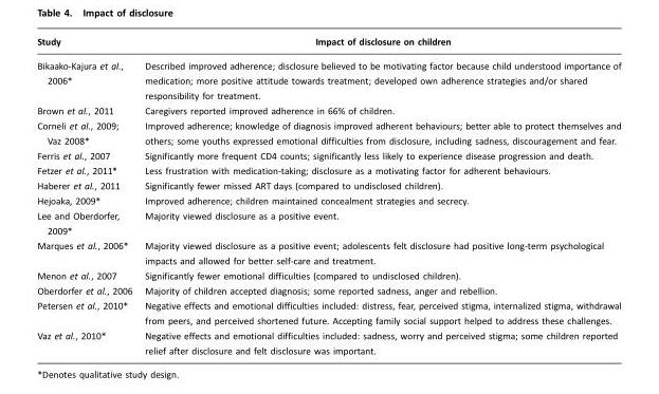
<table><thead><tr><td>Study</td><td>Impact of disclosure on children</td></tr></thead><tbody><tr><td>Bikaako-Kajura et al., 2006*</td><td>Described improved adherence; disclosure believed to be motivating factor because child understood importance of medication; more positive attitude towards treatment; developed own adherence strategies and/or shared responsibility for treatment.</td></tr><tr><td>Brown et al., 2011</td><td>Caregivers reported improved adherence in 66% of children.</td></tr><tr><td>Corneli et al., 2009; Vaz 2008*</td><td>Improved adherence; knowledge of diagnosis improved adherent behaviours; better able to protect themselves and others; some youths expressed emotional difficulties from disclosure, including sadness, discouragement and fear.</td></tr><tr><td>Ferris et al., 2007</td><td>Significantly more frequent CD4 counts; significantly less likely to experience disease progression and death.</td></tr><tr><td>Fetzer et al., 2011*</td><td>Less frustration with medication-taking; disclosure as a motivating factor for adherent behaviours.</td></tr><tr><td>Haberer et al., 2011</td><td>Significantly fewer missed ART days (compared to undisclosed children).</td></tr><tr><td>Hejoaka, 2009*</td><td>Improved adherence; children maintained concealment strategies and secrecy.</td></tr><tr><td>Lee and Oberdorfer, 2009*</td><td>Majority viewed disclosure as a positive event.</td></tr><tr><td>Marques et al., 2006*</td><td>Majority viewed disclosure as a positive event; adolescents felt disclosure had positive long-term psychological impacts and allowed for better self-care and treatment.</td></tr><tr><td>Menon et al., 2007</td><td>Significantly fewer emotional difficulties (compared to undisclosed children).</td></tr><tr><td>Oberdorfer et al., 2006</td><td>Majority of children accepted diagnosis; some reported sadness, anger and rebellion.</td></tr><tr><td>Petersen et al., 2010*</td><td>Negative effects and emotional difficulties included: distress, fear, perceived stigma, internalized stigma, withdrawal from peers, and perceived shortened future. Accepting family social support helped to address these challenges.</td></tr><tr><td>Vaz et al., 2010*</td><td>Negative effects and emotional difficulties included: sadness, worry and perceived stigma; some children reported relief after disclosure and felt disclosure was important.</td></tr></tbody></table>